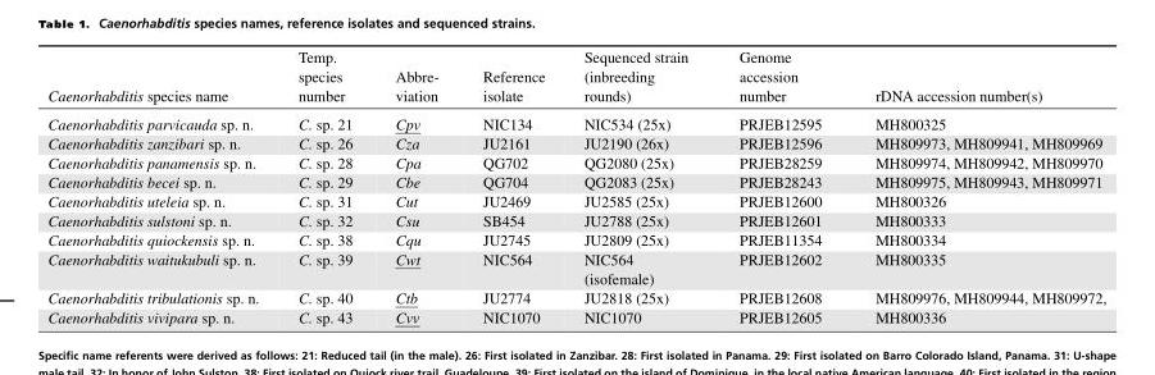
<table><thead><tr><td>Caenorhabditis species name</td><td>Temp. species number</td><td>Abbre- viation</td><td>Reference isolate</td><td>Sequenced strain (inbreeding rounds)</td><td>Genome accession number</td><td>rDNA accession number(s)</td></tr></thead><tbody><tr><td>Caenorhabditis parvicauda sp. n.</td><td>C. sp. 21</td><td>Cpv</td><td>NIC134</td><td>NIC534 (25x)</td><td>PRJEB12595</td><td>MH800325</td></tr><tr><td>Caenorhabditis zanzibari sp. n.</td><td>C. sp. 26</td><td>Cza</td><td>JU2161</td><td>JU2190 (26x)</td><td>PRJEB12596</td><td>MH809973, MH809941, MH809969</td></tr><tr><td>Caenorhabditis panamensis sp. n.</td><td>C. sp. 28</td><td>Cpa</td><td>QG702</td><td>QG2080 (25x)</td><td>PRJEB28259</td><td>MH809974, MH809942, MH809970</td></tr><tr><td>Caenorhabditis becei sp. n.</td><td>C. sp. 29</td><td>Cbe</td><td>QG704</td><td>QG2083 (25x)</td><td>PRJEB28243</td><td>MH809975, MH809943, MH809971</td></tr><tr><td>Caenorhabditis uteleia sp. n.</td><td>C. sp. 31</td><td>Cut</td><td>JU2469</td><td>JU2585 (25x)</td><td>PRJEB12600</td><td>MH800326</td></tr><tr><td>Caenorhabditis sulstoni sp. n.</td><td>C. sp. 32</td><td>Csu</td><td>SB454</td><td>JU2788 (25x)</td><td>PRJEB12601</td><td>MH800333</td></tr><tr><td>Caenorhabditis quiockensis sp. n.</td><td>C. sp. 38</td><td>Cqu</td><td>JU2745</td><td>JU2809 (25x)</td><td>PRJEB11354</td><td>MH800334</td></tr><tr><td>Caenorhabditis waitukubuli sp. n.</td><td>C. sp. 39</td><td>Cwt</td><td>NIC564</td><td>NIC564 (isofemale)</td><td>PRJEB12602</td><td>MH800335</td></tr><tr><td>Caenorhabditis tribulationis sp. n.</td><td>C. sp. 40</td><td>Ctb</td><td>JU2774</td><td>JU2818 (25x)</td><td>PRJEB12608</td><td>MH809976, MH809944, MH809972,</td></tr><tr><td>Caenorhabditis vivipara sp. n.</td><td>C. sp. 43</td><td>Cvv</td><td>NIC1070</td><td>NIC1070</td><td>PRJEB12605</td><td>MH800336</td></tr></tbody></table>